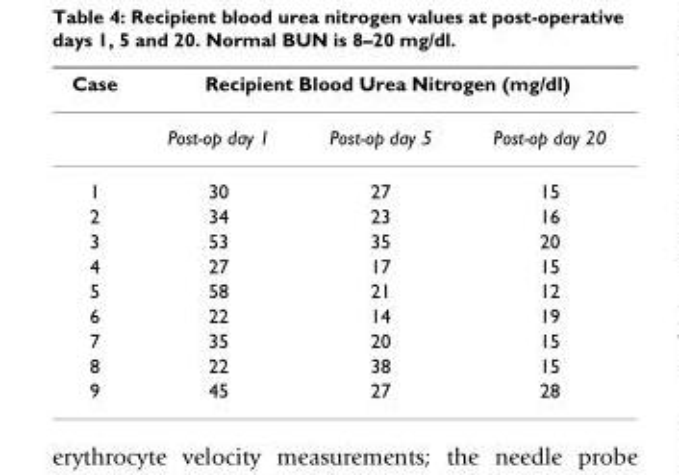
<table><thead><tr><td rowspan="2">Case</td><td colspan="3">Recipient Blood Urea Nitrogen (mg/dl)</td></tr><tr><td>Post-op day 1</td><td>Post-op day 5</td><td>Post-op day 20</td></tr></thead><tbody><tr><td>1</td><td>30</td><td>27</td><td>15</td></tr><tr><td>2</td><td>34</td><td>23</td><td>16</td></tr><tr><td>3</td><td>53</td><td>35</td><td>20</td></tr><tr><td>4</td><td>27</td><td>17</td><td>15</td></tr><tr><td>5</td><td>58</td><td>21</td><td>12</td></tr><tr><td>6</td><td>22</td><td>14</td><td>19</td></tr><tr><td>7</td><td>35</td><td>20</td><td>15</td></tr><tr><td>8</td><td>22</td><td>38</td><td>15</td></tr><tr><td>9</td><td>45</td><td>27</td><td>28</td></tr></tbody></table>